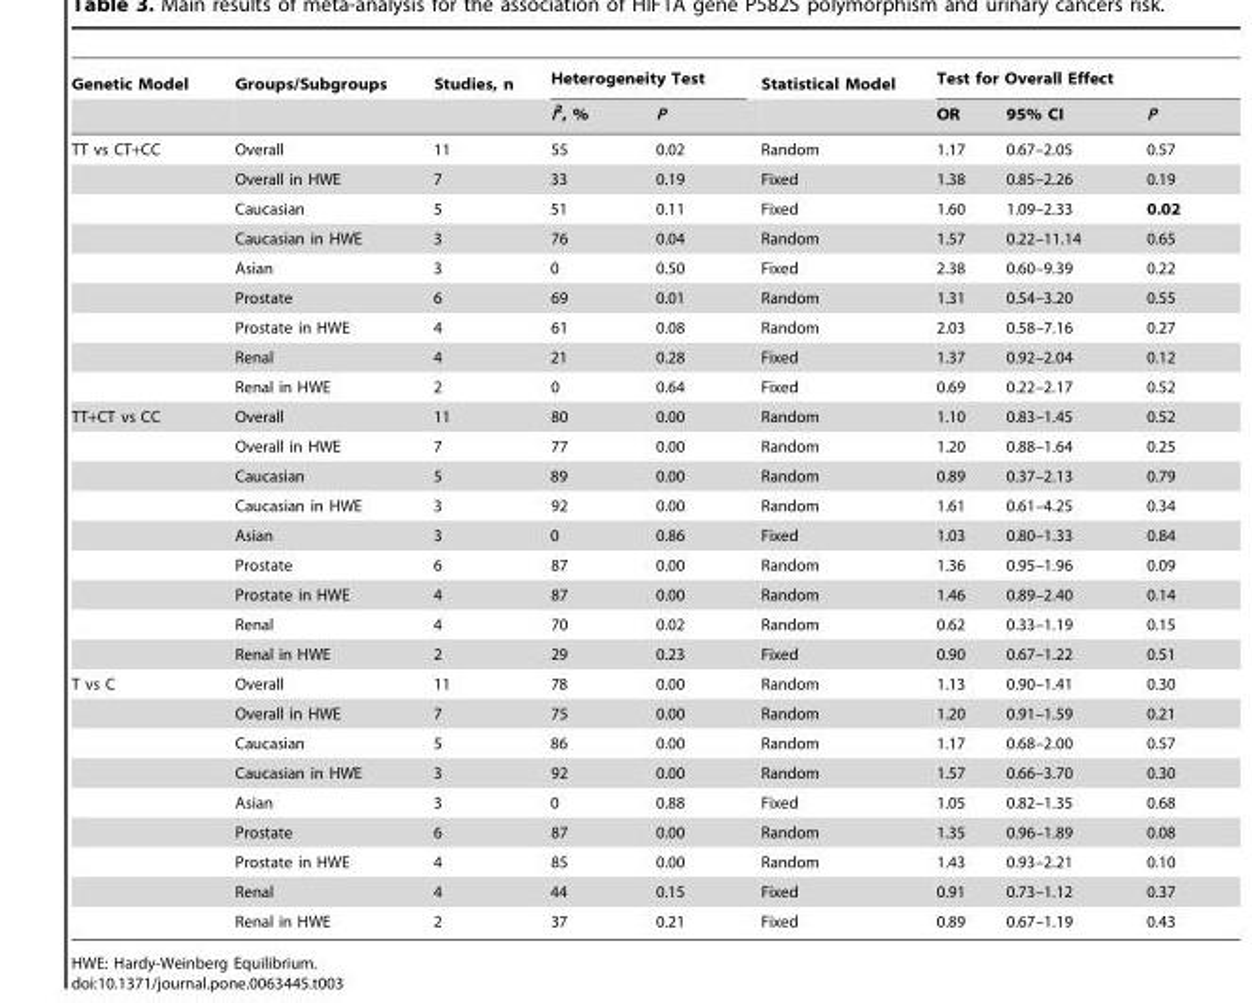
<table><thead><tr><td rowspan="2">Genetic Model</td><td rowspan="2">Groups/Subgroups</td><td rowspan="2">Studies, n</td><td colspan="2">Heterogeneity Test</td><td rowspan="2">Statistical Model</td><td colspan="3">Test for Overall Effect</td></tr><tr><td>I<sup>2</sup>, %</td><td>P</td><td>OR</td><td>95% CI</td><td>P</td></tr></thead><tbody><tr><td rowspan="9">TT vs CT+CC</td><td>Overall</td><td>11</td><td>55</td><td>0.02</td><td>Random</td><td>1.17</td><td>0.67–2.05</td><td>0.57</td></tr><tr><td>Overall in HWE</td><td>7</td><td>33</td><td>0.19</td><td>Fixed</td><td>1.38</td><td>0.85–2.26</td><td>0.19</td></tr><tr><td>Caucasian</td><td>5</td><td>51</td><td>0.11</td><td>Fixed</td><td>1.60</td><td>1.09–2.33</td><td>0.02</td></tr><tr><td>Caucasian in HWE</td><td>3</td><td>76</td><td>0.04</td><td>Random</td><td>1.57</td><td>0.22–11.14</td><td>0.65</td></tr><tr><td>Asian</td><td>3</td><td>0</td><td>0.50</td><td>Fixed</td><td>2.38</td><td>0.60–9.39</td><td>0.22</td></tr><tr><td>Prostate</td><td>6</td><td>69</td><td>0.01</td><td>Random</td><td>1.31</td><td>0.54–3.20</td><td>0.55</td></tr><tr><td>Prostate in HWE</td><td>4</td><td>61</td><td>0.08</td><td>Random</td><td>2.03</td><td>0.58–7.16</td><td>0.27</td></tr><tr><td>Renal</td><td>4</td><td>21</td><td>0.28</td><td>Fixed</td><td>1.37</td><td>0.92–2.04</td><td>0.12</td></tr><tr><td>Renal in HWE</td><td>2</td><td>0</td><td>0.64</td><td>Fixed</td><td>0.69</td><td>0.22–2.17</td><td>0.52</td></tr><tr><td rowspan="9">TT+CT vs CC</td><td>Overall</td><td>11</td><td>80</td><td>0.00</td><td>Random</td><td>1.10</td><td>0.83–1.45</td><td>0.52</td></tr><tr><td>Overall in HWE</td><td>7</td><td>77</td><td>0.00</td><td>Random</td><td>1.20</td><td>0.88–1.64</td><td>0.25</td></tr><tr><td>Caucasian</td><td>5</td><td>89</td><td>0.00</td><td>Random</td><td>0.89</td><td>0.37–2.13</td><td>0.79</td></tr><tr><td>Caucasian in HWE</td><td>3</td><td>92</td><td>0.00</td><td>Random</td><td>1.61</td><td>0.61–4.25</td><td>0.34</td></tr><tr><td>Asian</td><td>3</td><td>0</td><td>0.86</td><td>Fixed</td><td>1.03</td><td>0.80–1.33</td><td>0.84</td></tr><tr><td>Prostate</td><td>6</td><td>87</td><td>0.00</td><td>Random</td><td>1.36</td><td>0.95–1.96</td><td>0.09</td></tr><tr><td>Prostate in HWE</td><td>4</td><td>87</td><td>0.00</td><td>Random</td><td>1.46</td><td>0.89–2.40</td><td>0.14</td></tr><tr><td>Renal</td><td>4</td><td>70</td><td>0.02</td><td>Random</td><td>0.62</td><td>0.33–1.19</td><td>0.15</td></tr><tr><td>Renal in HWE</td><td>2</td><td>29</td><td>0.23</td><td>Fixed</td><td>0.90</td><td>0.67–1.22</td><td>0.51</td></tr><tr><td rowspan="9">T vs C</td><td>Overall</td><td>11</td><td>78</td><td>0.00</td><td>Random</td><td>1.13</td><td>0.90–1.41</td><td>0.30</td></tr><tr><td>Overall in HWE</td><td>7</td><td>75</td><td>0.00</td><td>Random</td><td>1.20</td><td>0.91–1.59</td><td>0.21</td></tr><tr><td>Caucasian</td><td>5</td><td>86</td><td>0.00</td><td>Random</td><td>1.17</td><td>0.68–2.00</td><td>0.57</td></tr><tr><td>Caucasian in HWE</td><td>3</td><td>92</td><td>0.00</td><td>Random</td><td>1.57</td><td>0.66–3.70</td><td>0.30</td></tr><tr><td>Asian</td><td>3</td><td>0</td><td>0.88</td><td>Fixed</td><td>1.05</td><td>0.82–1.35</td><td>0.68</td></tr><tr><td>Prostate</td><td>6</td><td>87</td><td>0.00</td><td>Random</td><td>1.35</td><td>0.96–1.89</td><td>0.08</td></tr><tr><td>Prostate in HWE</td><td>4</td><td>85</td><td>0.00</td><td>Random</td><td>1.43</td><td>0.93–2.21</td><td>0.10</td></tr><tr><td>Renal</td><td>4</td><td>44</td><td>0.15</td><td>Fixed</td><td>0.91</td><td>0.73–1.12</td><td>0.37</td></tr><tr><td>Renal in HWE</td><td>2</td><td>37</td><td>0.21</td><td>Fixed</td><td>0.89</td><td>0.67–1.19</td><td>0.43</td></tr></tbody></table>